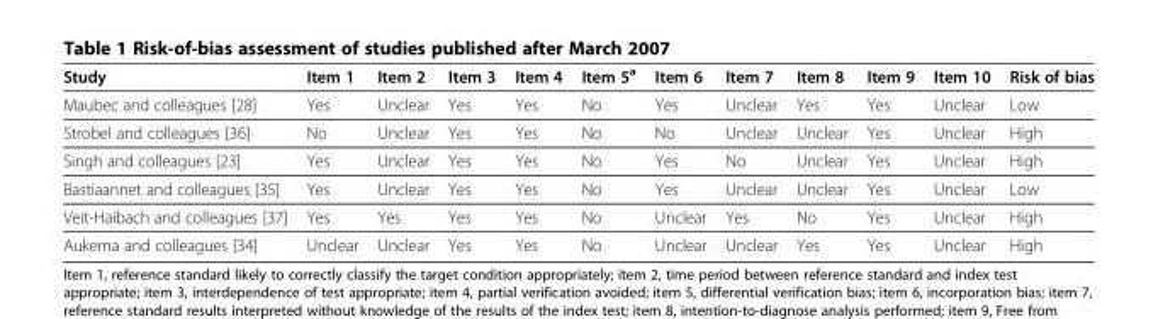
<table><thead><tr><td>Study</td><td>Item 1</td><td>Item 2</td><td>Item 3</td><td>Item 4</td><td>Item 5<sup>a</sup></td><td>Item 6</td><td>Item 7</td><td>Item 8</td><td>Item 9</td><td>Item 10</td><td>Risk of bias</td></tr></thead><tbody><tr><td>Maubec and colleagues [28]</td><td>Yes</td><td>Unclear</td><td>Yes</td><td>Yes</td><td>No</td><td>Yes</td><td>Unclear</td><td>Yes</td><td>Yes</td><td>Unclear</td><td>Low</td></tr><tr><td>Strobel and colleagues [36]</td><td>No</td><td>Unclear</td><td>Yes</td><td>Yes</td><td>No</td><td>No</td><td>Unclear</td><td>Unclear</td><td>Yes</td><td>Unclear</td><td>High</td></tr><tr><td>Singh and colleagues [23]</td><td>Yes</td><td>Unclear</td><td>Yes</td><td>Yes</td><td>No</td><td>Yes</td><td>No</td><td>Unclear</td><td>Yes</td><td>Unclear</td><td>High</td></tr><tr><td>Bastiaannet and colleagues [35]</td><td>Yes</td><td>Unclear</td><td>Yes</td><td>Yes</td><td>No</td><td>Yes</td><td>Unclear</td><td>Unclear</td><td>Yes</td><td>Unclear</td><td>Low</td></tr><tr><td>Veit-Haibach and colleagues [37]</td><td>Yes</td><td>Yes</td><td>Yes</td><td>Yes</td><td>No</td><td>Unclear</td><td>Yes</td><td>No</td><td>Yes</td><td>Unclear</td><td>High</td></tr><tr><td>Aukema and colleagues [34]</td><td>Unclear</td><td>Unclear</td><td>Yes</td><td>Yes</td><td>No</td><td>Unclear</td><td>Unclear</td><td>Yes</td><td>Yes</td><td>Unclear</td><td>High</td></tr></tbody></table>